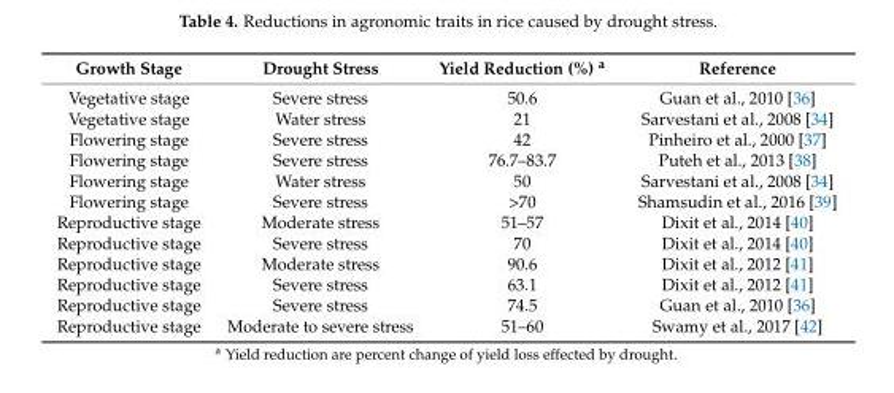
<table><thead><tr><td>Growth Stage</td><td>Drought Stress</td><td>Yield Reduction (%) <sup>a</sup></td><td>Reference</td></tr></thead><tbody><tr><td>Vegetative stage</td><td>Severe stress</td><td>50.6</td><td>Guan et al., 2010 [36]</td></tr><tr><td>Vegetative stage</td><td>Water stress</td><td>21</td><td>Sarvestani et al., 2008 [34]</td></tr><tr><td>Flowering stage</td><td>Severe stress</td><td>42</td><td>Pinheiro et al., 2000 [37]</td></tr><tr><td>Flowering stage</td><td>Severe stress</td><td>76.7–83.7</td><td>Puteh et al., 2013 [38]</td></tr><tr><td>Flowering stage</td><td>Water stress</td><td>50</td><td>Sarvestani et al., 2008 [34]</td></tr><tr><td>Flowering stage</td><td>Severe stress</td><td>&gt;70</td><td>Shamsudin et al., 2016 [39]</td></tr><tr><td>Reproductive stage</td><td>Moderate stress</td><td>51–57</td><td>Dixit et al., 2014 [40]</td></tr><tr><td>Reproductive stage</td><td>Severe stress</td><td>70</td><td>Dixit et al., 2014 [40]</td></tr><tr><td>Reproductive stage</td><td>Moderate stress</td><td>90.6</td><td>Dixit et al., 2012 [41]</td></tr><tr><td>Reproductive stage</td><td>Severe stress</td><td>63.1</td><td>Dixit et al., 2012 [41]</td></tr><tr><td>Reproductive stage</td><td>Severe stress</td><td>74.5</td><td>Guan et al., 2010 [36]</td></tr><tr><td>Reproductive stage</td><td>Moderate to severe stress</td><td>51–60</td><td>Swamy et al., 2017 [42]</td></tr></tbody></table>